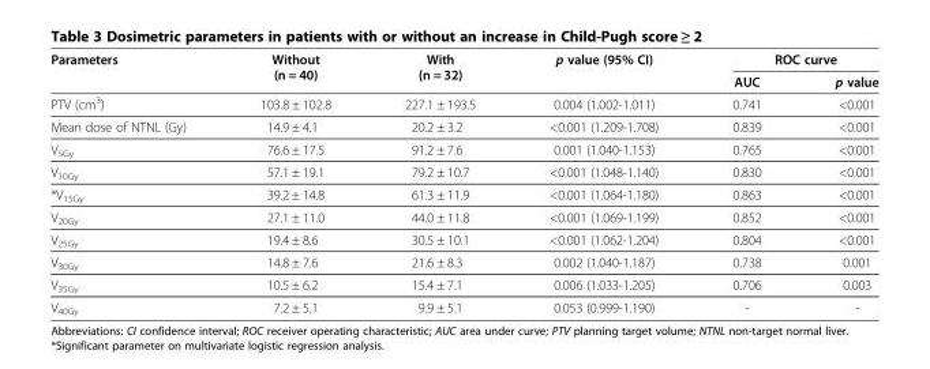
<table><thead><tr><td rowspan="2">Parameters</td><td rowspan="2">Without (n = 40)</td><td rowspan="2">With (n = 32)</td><td rowspan="2">p value (95% CI)</td><td colspan="2">ROC curve</td></tr><tr><td>AUC</td><td>p value</td></tr></thead><tbody><tr><td>PTV (cm<sup>3</sup>)</td><td>103.8 ± 102.8</td><td>227.1 ± 193.5</td><td>0.004 (1.002-1.011)</td><td>0.741</td><td>&lt;0.001</td></tr><tr><td>Mean dose of NTNL (Gy)</td><td>14.9 ± 4.1</td><td>20.2 ± 3.2</td><td>&lt;0.001 (1.209-1.708)</td><td>0.839</td><td>&lt;0.001</td></tr><tr><td>V<sub>5Gy</sub></td><td>76.6 ± 17.5</td><td>91.2 ± 7.6</td><td>0.001 (1.040-1.153)</td><td>0.765</td><td>&lt;0.001</td></tr><tr><td>V<sub>10Gy</sub></td><td>57.1 ± 19.1</td><td>79.2 ± 10.7</td><td>&lt;0.001 (1.048-1.140)</td><td>0.830</td><td>&lt;0.001</td></tr><tr><td>*V<sub>15Gy</sub></td><td>39.2 ± 14.8</td><td>61.3 ± 11.9</td><td>&lt;0.001 (1.064-1.180)</td><td>0.863</td><td>&lt;0.001</td></tr><tr><td>V<sub>20Gy</sub></td><td>27.1 ± 11.0</td><td>44.0 ± 11.8</td><td>&lt;0.001 (1.069-1.199)</td><td>0.852</td><td>&lt;0.001</td></tr><tr><td>V<sub>25Gy</sub></td><td>19.4 ± 8.6</td><td>30.5 ± 10.1</td><td>&lt;0.001 (1.062-1.204)</td><td>0.804</td><td>&lt;0.001</td></tr><tr><td>V<sub>30Gy</sub></td><td>14.8 ± 7.6</td><td>21.6 ± 8.3</td><td>0.002 (1.040-1.187)</td><td>0.738</td><td>0.001</td></tr><tr><td>V<sub>35Gy</sub></td><td>10.5 ± 6.2</td><td>15.4 ± 7.1</td><td>0.006 (1.033-1.205)</td><td>0.706</td><td>0.003</td></tr><tr><td>V<sub>40Gy</sub></td><td>7.2 ± 5.1</td><td>9.9 ± 5.1</td><td>0.053 (0.999-1.190)</td><td>-</td><td>-</td></tr></tbody></table>